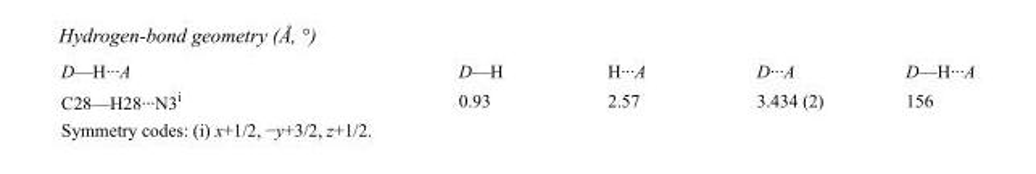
<table><tbody><tr><td>D—H···A</td><td>D—H</td><td>H···A</td><td>D···A</td><td>D—H···A</td></tr><tr><td>C28—H28···N3<sup>i</sup></td><td>0.93</td><td>2.57</td><td>3.434 (2)</td><td>156</td></tr></tbody></table>